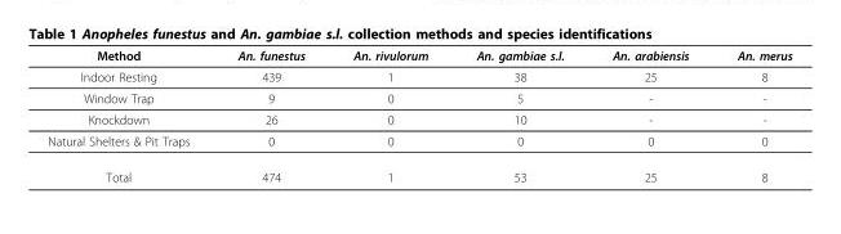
<table><thead><tr><td>Method</td><td>An. funestus</td><td>An. rivulorum</td><td>An. gambiae s.l.</td><td>An. arabiensis</td><td>An. merus</td></tr></thead><tbody><tr><td>Indoor Resting</td><td>439</td><td>1</td><td>38</td><td>25</td><td>8</td></tr><tr><td>Window Trap</td><td>9</td><td>0</td><td>5</td><td>-</td><td>-</td></tr><tr><td>Knockdown</td><td>26</td><td>0</td><td>10</td><td>-</td><td>-</td></tr><tr><td>Natural Shelters &amp; Pit Traps</td><td>0</td><td>0</td><td>0</td><td>0</td><td>0</td></tr><tr><td>Total</td><td>474</td><td>1</td><td>53</td><td>25</td><td>8</td></tr></tbody></table>